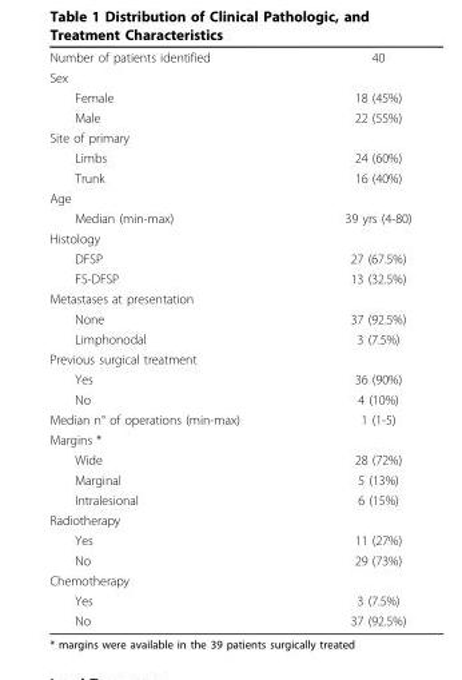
<table><tbody><tr><td>Number of patients identified</td><td>40</td></tr><tr><td colspan="2">Sex</td></tr><tr><td>Female</td><td>18 (45%)</td></tr><tr><td>Male</td><td>22 (55%)</td></tr><tr><td colspan="2">Site of primary</td></tr><tr><td>Limbs</td><td>24 (60%)</td></tr><tr><td>Trunk</td><td>16 (40%)</td></tr><tr><td colspan="2">Age</td></tr><tr><td>Median (min-max)</td><td>39 yrs (4-80)</td></tr><tr><td colspan="2">Histology</td></tr><tr><td>DFSP</td><td>27 (67.5%)</td></tr><tr><td>FS-DFSP</td><td>13 (32.5%)</td></tr><tr><td colspan="2">Metastases at presentation</td></tr><tr><td>None</td><td>37 (92.5%)</td></tr><tr><td>Limphonodal</td><td>3 (7.5%)</td></tr><tr><td colspan="2">Previous surgical treatment</td></tr><tr><td>Yes</td><td>36 (90%)</td></tr><tr><td>No</td><td>4 (10%)</td></tr><tr><td>Median n° of operations (min-max)</td><td>1 (1-5)</td></tr><tr><td colspan="2">Margins *</td></tr><tr><td>Wide</td><td>28 (72%)</td></tr><tr><td>Marginal</td><td>5 (13%)</td></tr><tr><td>Intralesional</td><td>6 (15%)</td></tr><tr><td colspan="2">Radiotherapy</td></tr><tr><td>Yes</td><td>11 (27%)</td></tr><tr><td>No</td><td>29 (73%)</td></tr><tr><td colspan="2">Chemotherapy</td></tr><tr><td>Yes</td><td>3 (7.5%)</td></tr><tr><td>No</td><td>37 (92.5%)</td></tr></tbody></table>